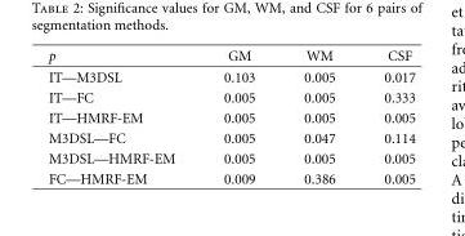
<table><tbody><tr><td>p</td><td>GM</td><td>WM</td><td>CSF</td></tr><tr><td>IT—M3DSL</td><td>0.103</td><td>0.005</td><td>0.017</td></tr><tr><td>IT—FC</td><td>0.005</td><td>0.005</td><td>0.333</td></tr><tr><td>IT—HMRF-EM</td><td>0.005</td><td>0.005</td><td>0.005</td></tr><tr><td>M3DSL—FC</td><td>0.005</td><td>0.047</td><td>0.114</td></tr><tr><td>M3DSL—HMRF-EM</td><td>0.005</td><td>0.005</td><td>0.005</td></tr><tr><td>FC—HMRF-EM</td><td>0.009</td><td>0.386</td><td>0.005</td></tr></tbody></table>